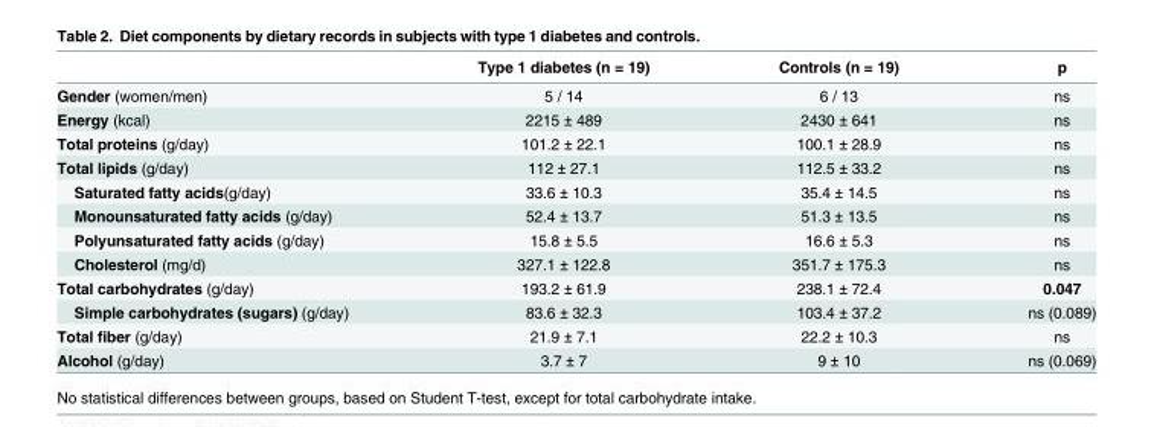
<table><thead><tr><td></td><td>Type 1 diabetes (n = 19)</td><td>Controls (n = 19)</td><td>p</td></tr></thead><tbody><tr><td>Gender (women/men)</td><td>5 / 14</td><td>6 / 13</td><td>ns</td></tr><tr><td>Energy (kcal)</td><td>2215 ± 489</td><td>2430 ± 641</td><td>ns</td></tr><tr><td>Total proteins (g/day)</td><td>101.2 ± 22.1</td><td>100.1 ± 28.9</td><td>ns</td></tr><tr><td>Total lipids (g/day)</td><td>112 ± 27.1</td><td>112.5 ± 33.2</td><td>ns</td></tr><tr><td>Saturated fatty acids(g/day)</td><td>33.6 ± 10.3</td><td>35.4 ± 14.5</td><td>ns</td></tr><tr><td>Monounsaturated fatty acids (g/day)</td><td>52.4 ± 13.7</td><td>51.3 ± 13.5</td><td>ns</td></tr><tr><td>Polyunsaturated fatty acids (g/day)</td><td>15.8 ± 5.5</td><td>16.6 ± 5.3</td><td>ns</td></tr><tr><td>Cholesterol (mg/d)</td><td>327.1 ± 122.8</td><td>351.7 ± 175.3</td><td>ns</td></tr><tr><td>Total carbohydrates (g/day)</td><td>193.2 ± 61.9</td><td>238.1 ± 72.4</td><td>0.047</td></tr><tr><td>Simple carbohydrates (sugars) (g/day)</td><td>83.6 ± 32.3</td><td>103.4 ± 37.2</td><td>ns (0.089)</td></tr><tr><td>Total fiber (g/day)</td><td>21.9 ± 7.1</td><td>22.2 ± 10.3</td><td>ns</td></tr><tr><td>Alcohol (g/day)</td><td>3.7 ± 7</td><td>9 ± 10</td><td>ns (0.069)</td></tr></tbody></table>